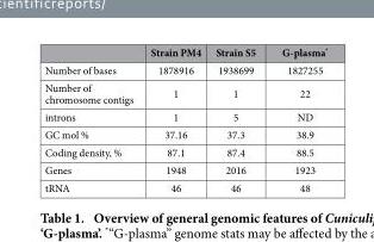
<table><thead><tr><td></td><td>Strain PM4</td><td>Strain S5</td><td>G-plasma*</td></tr></thead><tbody><tr><td>Number of bases</td><td>1878916</td><td>1938699</td><td>1827255</td></tr><tr><td>Number of chromosome contigs</td><td>1</td><td>1</td><td>22</td></tr><tr><td>introns</td><td>1</td><td>5</td><td>ND</td></tr><tr><td>GC mol %</td><td>37.16</td><td>37.3</td><td>38.9</td></tr><tr><td>Coding density, %</td><td>87.1</td><td>87.4</td><td>88.5</td></tr><tr><td>Genes</td><td>1948</td><td>2016</td><td>1923</td></tr><tr><td>tRNA</td><td>46</td><td>46</td><td>48</td></tr></tbody></table>